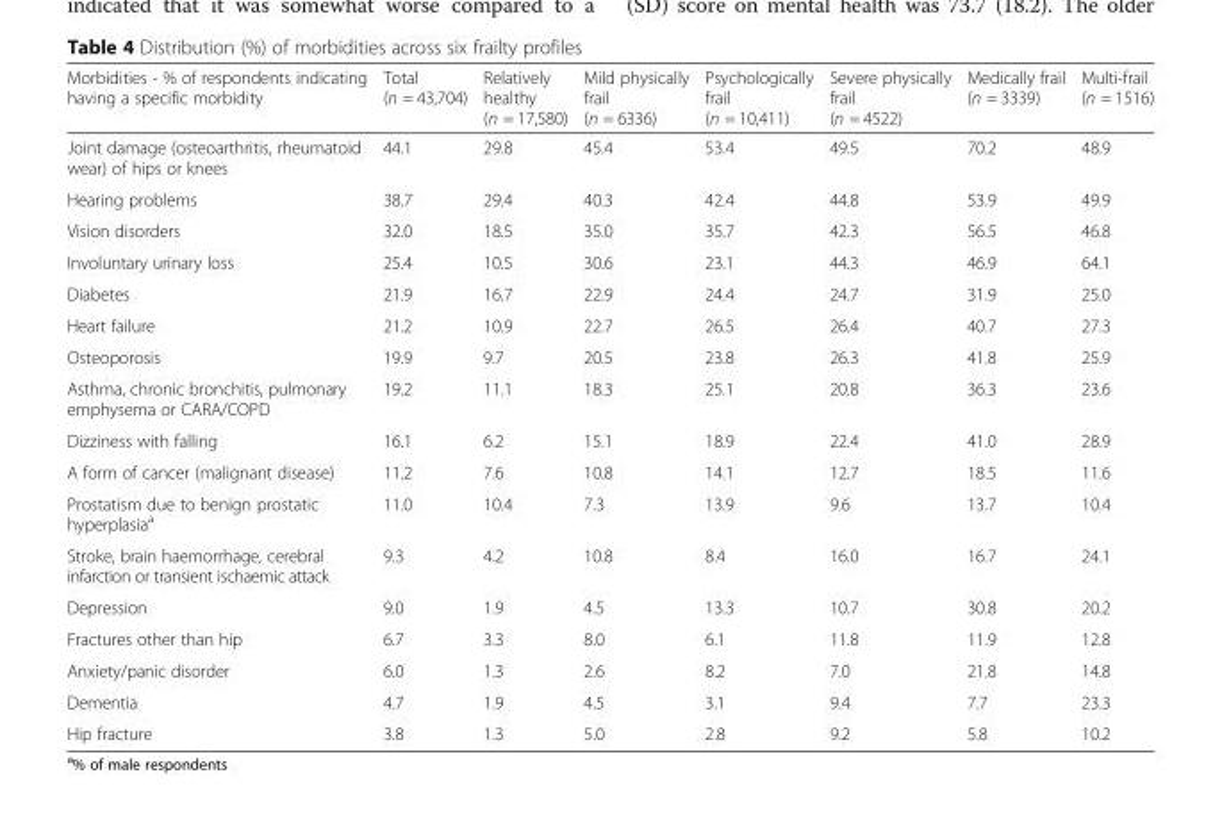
<table><thead><tr><td>Morbidities - % of respondents indicating having a specific morbidity</td><td>Total (n = 43,704)</td><td>Relatively healthy (n = 17,580)</td><td>Mild physically frail (n = 6336)</td><td>Psychologically frail (n = 10,411)</td><td>Severe physically frail (n = 4522)</td><td>Medically frail (n = 3339)</td><td>Multi-frail (n = 1516)</td></tr></thead><tbody><tr><td>Joint damage (osteoarthritis, rheumatoid wear) of hips or knees</td><td>44.1</td><td>29.8</td><td>45.4</td><td>53.4</td><td>49.5</td><td>70.2</td><td>48.9</td></tr><tr><td>Hearing problems</td><td>38.7</td><td>29.4</td><td>40.3</td><td>42.4</td><td>44.8</td><td>53.9</td><td>49.9</td></tr><tr><td>Vision disorders</td><td>32.0</td><td>18.5</td><td>35.0</td><td>35.7</td><td>42.3</td><td>56.5</td><td>46.8</td></tr><tr><td>Involuntary urinary loss</td><td>25.4</td><td>10.5</td><td>30.6</td><td>23.1</td><td>44.3</td><td>46.9</td><td>64.1</td></tr><tr><td>Diabetes</td><td>21.9</td><td>16.7</td><td>22.9</td><td>24.4</td><td>24.7</td><td>31.9</td><td>25.0</td></tr><tr><td>Heart failure</td><td>21.2</td><td>10.9</td><td>22.7</td><td>26.5</td><td>26.4</td><td>40.7</td><td>27.3</td></tr><tr><td>Osteoporosis</td><td>19.9</td><td>9.7</td><td>20.5</td><td>23.8</td><td>26.3</td><td>41.8</td><td>25.9</td></tr><tr><td>Asthma, chronic bronchitis, pulmonary emphysema or CARA/COPD</td><td>19.2</td><td>11.1</td><td>18.3</td><td>25.1</td><td>20.8</td><td>36.3</td><td>23.6</td></tr><tr><td>Dizziness with falling</td><td>16.1</td><td>6.2</td><td>15.1</td><td>18.9</td><td>22.4</td><td>41.0</td><td>28.9</td></tr><tr><td>A form of cancer (malignant disease)</td><td>11.2</td><td>7.6</td><td>10.8</td><td>14.1</td><td>12.7</td><td>18.5</td><td>11.6</td></tr><tr><td>Prostatism due to benign prostatic hyperplasia<sup>a</sup></td><td>11.0</td><td>10.4</td><td>7.3</td><td>13.9</td><td>9.6</td><td>13.7</td><td>10.4</td></tr><tr><td>Stroke, brain haemorrhage, cerebral infarction or transient ischaemic attack</td><td>9.3</td><td>4.2</td><td>10.8</td><td>8.4</td><td>16.0</td><td>16.7</td><td>24.1</td></tr><tr><td>Depression</td><td>9.0</td><td>1.9</td><td>4.5</td><td>13.3</td><td>10.7</td><td>30.8</td><td>20.2</td></tr><tr><td>Fractures other than hip</td><td>6.7</td><td>3.3</td><td>8.0</td><td>6.1</td><td>11.8</td><td>11.9</td><td>12.8</td></tr><tr><td>Anxiety/panic disorder</td><td>6.0</td><td>1.3</td><td>2.6</td><td>8.2</td><td>7.0</td><td>21.8</td><td>14.8</td></tr><tr><td>Dementia</td><td>4.7</td><td>1.9</td><td>4.5</td><td>3.1</td><td>9.4</td><td>7.7</td><td>23.3</td></tr><tr><td>Hip fracture</td><td>3.8</td><td>1.3</td><td>5.0</td><td>2.8</td><td>9.2</td><td>5.8</td><td>10.2</td></tr></tbody></table>